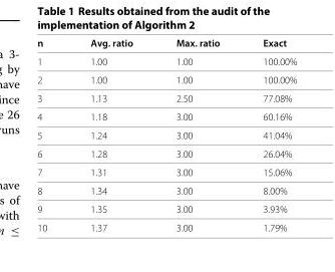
<table><thead><tr><td>n</td><td>Avg. ratio</td><td>Max. ratio</td><td>Exact</td></tr></thead><tbody><tr><td>1</td><td>1.00</td><td>1.00</td><td>100.00%</td></tr><tr><td>2</td><td>1.00</td><td>1.00</td><td>100.00%</td></tr><tr><td>3</td><td>1.13</td><td>2.50</td><td>77.08%</td></tr><tr><td>4</td><td>1.18</td><td>3.00</td><td>60.16%</td></tr><tr><td>5</td><td>1.24</td><td>3.00</td><td>41.04%</td></tr><tr><td>6</td><td>1.28</td><td>3.00</td><td>26.04%</td></tr><tr><td>7</td><td>1.31</td><td>3.00</td><td>15.06%</td></tr><tr><td>8</td><td>1.34</td><td>3.00</td><td>8.00%</td></tr><tr><td>9</td><td>1.35</td><td>3.00</td><td>3.93%</td></tr><tr><td>10</td><td>1.37</td><td>3.00</td><td>1.79%</td></tr></tbody></table>